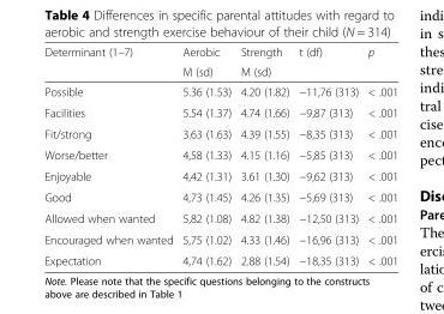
<table><thead><tr><td rowspan="2">Determinant (1–7)</td><td rowspan="2">Aerobic M (sd)</td><td rowspan="2">Strength M (sd)</td><td rowspan="2">t (df)</td><td rowspan="2">p</td></tr><tr></tr></thead><tbody><tr><td>Possible</td><td>5.36 (1.53)</td><td>4.20 (1.82)</td><td>−11,76 (313)</td><td>&lt; .001</td></tr><tr><td>Facilities</td><td>5.54 (1.37)</td><td>4.74 (1.66)</td><td>−9,87 (313)</td><td>&lt; .001</td></tr><tr><td>Fit/strong</td><td>3.63 (1.63)</td><td>4.39 (1.55)</td><td>−8,35 (313)</td><td>&lt; .001</td></tr><tr><td>Worse/better</td><td>4,58 (1.33)</td><td>4.15 (1.16)</td><td>−5,85 (313)</td><td>&lt; .001</td></tr><tr><td>Enjoyable</td><td>4,42 (1.31)</td><td>3.61 (1.30)</td><td>−9,62 (313)</td><td>&lt; .001</td></tr><tr><td>Good</td><td>4,73 (1.45)</td><td>4.26 (1.35)</td><td>−5,69 (313)</td><td>&lt; .001</td></tr><tr><td>Allowed when wanted</td><td>5,82 (1.08)</td><td>4.82 (1.38)</td><td>−12,50 (313)</td><td>&lt; .001</td></tr><tr><td>Encouraged when wanted</td><td>5,75 (1.02)</td><td>4.33 (1.46)</td><td>−16,96 (313)</td><td>&lt; .001</td></tr><tr><td>Expectation</td><td>4,74 (1.62)</td><td>2.88 (1.54)</td><td>−18,35 (313)</td><td>&lt; .001</td></tr></tbody></table>